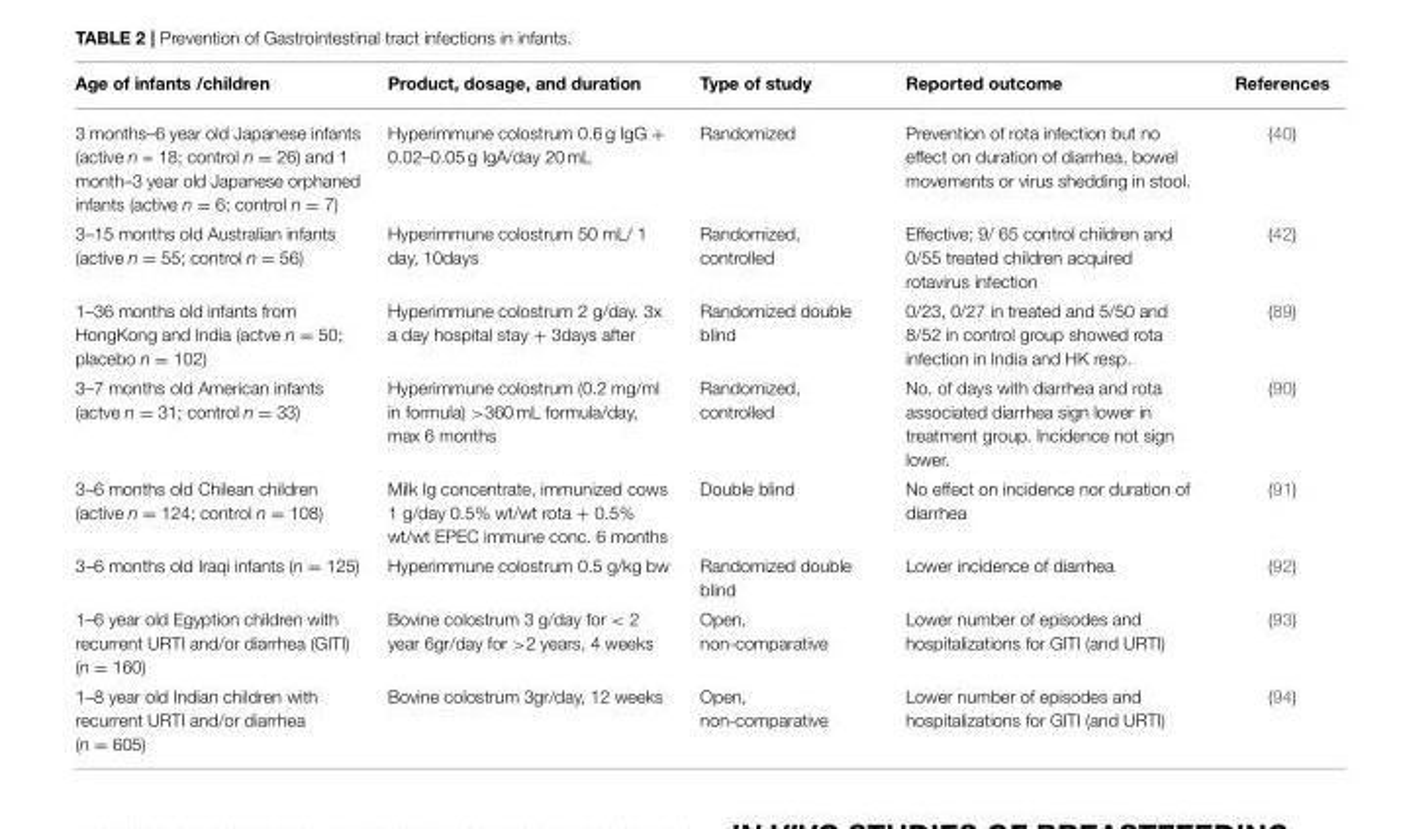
<table><thead><tr><td>Age of infants /children</td><td>Product, dosage, and duration</td><td>Type of study</td><td>Reported outcome</td><td>References</td></tr></thead><tbody><tr><td>3 months–6 year old Japanese infants (active n = 18; control n = 26) and 1 month–3 year old Japanese orphaned infants (active n = 6; control n = 7)</td><td>Hyperimmune colostrum 0.6 g IgG + 0.02–0.05 g IgA/day 20 mL</td><td>Randomized</td><td>Prevention of rota infection but no effect on duration of diarrhea, bowel movements or virus shedding in stool.</td><td>(40)</td></tr><tr><td>3–15 months old Australian infants (active n = 55; control n = 56)</td><td>Hyperimmune colostrum 50 mL/ 1 day, 10days</td><td>Randomized, controlled</td><td>Effective; 9/ 65 control children and 0/55 treated children acquired rotavirus infection</td><td>(42)</td></tr><tr><td>1–36 months old infants from HongKong and India (actve n = 50; placebo n = 102)</td><td>Hyperimmune colostrum 2 g/day. 3x a day hospital stay + 3days after</td><td>Randomized double blind</td><td>0/23, 0/27 in treated and 5/50 and 8/52 in control group showed rota infection in India and HK resp.</td><td>(89)</td></tr><tr><td>3–7 months old American infants (actve n = 31; control n = 33)</td><td>Hyperimmune colostrum (0.2 mg/ml in formula) &gt;360 mL formula/day, max 6 months</td><td>Randomized, controlled</td><td>No. of days with diarrhea and rota associated diarrhea sign lower in treatment group. Incidence not sign lower.</td><td>(90)</td></tr><tr><td>3–6 months old Chilean children (active n = 124; control n = 108)</td><td>Milk Ig concentrate, immunized cows 1 g/day 0.5% wt/wt rota + 0.5% wt/wt EPEC immune conc. 6 months</td><td>Double blind</td><td>No effect on incidence nor duration of diarrhea</td><td>(91)</td></tr><tr><td>3–6 months old Iraqi infants (n = 125)</td><td>Hyperimmune colostrum 0.5 g/kg bw</td><td>Randomized double blind</td><td>Lower incidence of diarrhea</td><td>(92)</td></tr><tr><td>1–6 year old Egyption children with recurrent URTI and/or diarrhea (GITI) (n = 160)</td><td>Bovine colostrum 3 g/day for &lt; 2 year 6gr/day for &gt;2 years, 4 weeks</td><td>Open, non-comparative</td><td>Lower number of episodes and hospitalizations for GITI (and URTI)</td><td>(93)</td></tr><tr><td>1–8 year old Indian children with recurrent URTI and/or diarrhea (n = 605)</td><td>Bovine colostrum 3gr/day, 12 weeks</td><td>Open, non-comparative</td><td>Lower number of episodes and hospitalizations for GITI (and URTI)</td><td>(94)</td></tr></tbody></table>